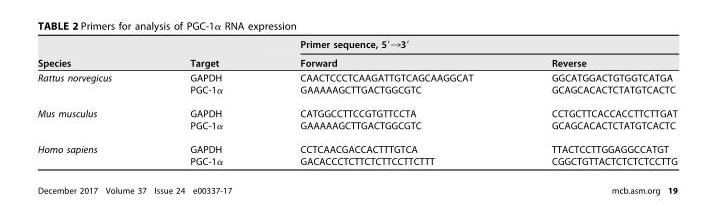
<table><thead><tr><td rowspan="2">Species</td><td rowspan="2">Target</td><td colspan="2">Primer sequence, 5=¡3=</td></tr><tr><td>Forward</td><td>Reverse</td></tr></thead><tbody><tr><td rowspan="2">Rattus norvegicus</td><td>GAPDH</td><td>CAACTCCCTCAAGATTGTCAGCAAGGCAT</td><td>GGCATGGACTGTGGTCATGA</td></tr><tr><td>PGC-1α</td><td>GAAAAAGCTTGACTGGCGTC</td><td>GCAGCACACTCTATGTCACTC</td></tr><tr><td rowspan="2">Mus musculus</td><td>GAPDH</td><td>CATGGCCTTCCGTGTTCCTA</td><td>CCTGCTTCACCACCTTCTTGAT</td></tr><tr><td>PGC-1α</td><td>GAAAAAGCTTGACTGGCGTC</td><td>GCAGCACACTCTATGTCACTC</td></tr><tr><td rowspan="2">Homo sapiens</td><td>GAPDH</td><td>CCTCAACGACCACTTTGTCA</td><td>TTACTCCTTGGAGGCCATGT</td></tr><tr><td>PGC-1α</td><td>GACACCCTCTTCTCTTCCTTCTTT</td><td>CGGCTGTTACTCTCTCTCCTTG</td></tr></tbody></table>